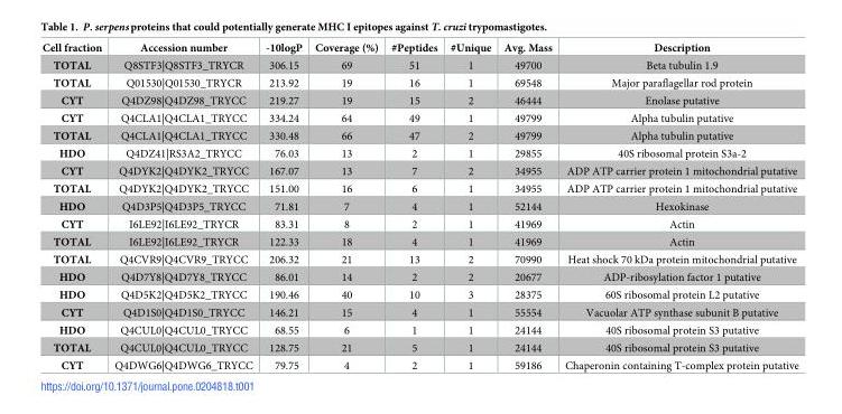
<table><thead><tr><td>Cell fraction</td><td>Accession number</td><td>-10logP</td><td>Coverage (%)</td><td>#Peptides</td><td>#Unique</td><td>Avg. Mass</td><td>Description</td></tr></thead><tbody><tr><td>TOTAL</td><td>Q8STF3|Q8STF3_TRYCR</td><td>306.15</td><td>69</td><td>51</td><td>1</td><td>49700</td><td>Beta tubulin 1.9</td></tr><tr><td>TOTAL</td><td>Q01530|Q01530_TRYCR</td><td>213.92</td><td>19</td><td>16</td><td>1</td><td>69548</td><td>Major paraflagellar rod protein</td></tr><tr><td>CYT</td><td>Q4DZ98|Q4DZ98_TRYCC</td><td>219.27</td><td>19</td><td>15</td><td>2</td><td>46444</td><td>Enolase putative</td></tr><tr><td>CYT</td><td>Q4CLA1|Q4CLA1_TRYCC</td><td>334.24</td><td>64</td><td>49</td><td>1</td><td>49799</td><td>Alpha tubulin putative</td></tr><tr><td>TOTAL</td><td>Q4CLA1|Q4CLA1_TRYCC</td><td>330.48</td><td>66</td><td>47</td><td>2</td><td>49799</td><td>Alpha tubulin putative</td></tr><tr><td>HDO</td><td>Q4DZ41|RS3A2_TRYCC</td><td>76.03</td><td>13</td><td>2</td><td>1</td><td>29855</td><td>40S ribosomal protein S3a-2</td></tr><tr><td>CYT</td><td>Q4DYK2|Q4DYK2_TRYCC</td><td>167.07</td><td>13</td><td>7</td><td>2</td><td>34955</td><td>ADP ATP carrier protein 1 mitochondrial putative</td></tr><tr><td>TOTAL</td><td>Q4DYK2|Q4DYK2_TRYCC</td><td>151.00</td><td>16</td><td>6</td><td>1</td><td>34955</td><td>ADP ATP carrier protein 1 mitochondrial putative</td></tr><tr><td>HDO</td><td>Q4D3P5|Q4D3P5_TRYCC</td><td>71.81</td><td>7</td><td>4</td><td>1</td><td>52144</td><td>Hexokinase</td></tr><tr><td>CYT</td><td>I6LE92|I6LE92_TRYCR</td><td>83.31</td><td>8</td><td>2</td><td>1</td><td>41969</td><td>Actin</td></tr><tr><td>TOTAL</td><td>I6LE92|I6LE92_TRYCR</td><td>122.33</td><td>18</td><td>4</td><td>1</td><td>41969</td><td>Actin</td></tr><tr><td>TOTAL</td><td>Q4CVR9|Q4CVR9_TRYCC</td><td>206.32</td><td>21</td><td>13</td><td>2</td><td>70990</td><td>Heat shock 70 kDa protein mitochondrial putative</td></tr><tr><td>HDO</td><td>Q4D7Y8|Q4D7Y8_TRYCC</td><td>86.01</td><td>14</td><td>2</td><td>2</td><td>20677</td><td>ADP-ribosylation factor 1 putative</td></tr><tr><td>HDO</td><td>Q4D5K2|Q4D5K2_TRYCC</td><td>190.46</td><td>40</td><td>10</td><td>3</td><td>28375</td><td>60S ribosomal protein L2 putative</td></tr><tr><td>CYT</td><td>Q4D1S0|Q4D1S0_TRYCC</td><td>146.21</td><td>15</td><td>4</td><td>1</td><td>55554</td><td>Vacuolar ATP synthase subunit B putative</td></tr><tr><td>HDO</td><td>Q4CUL0|Q4CUL0_TRYCC</td><td>68.55</td><td>6</td><td>1</td><td>1</td><td>24144</td><td>40S ribosomal protein S3 putative</td></tr><tr><td>TOTAL</td><td>Q4CUL0|Q4CUL0_TRYCC</td><td>128.75</td><td>21</td><td>5</td><td>1</td><td>24144</td><td>40S ribosomal protein S3 putative</td></tr><tr><td>CYT</td><td>Q4DWG6|Q4DWG6_TRYCC</td><td>79.75</td><td>4</td><td>2</td><td>1</td><td>59186</td><td>Chaperonin containing T-complex protein putative</td></tr></tbody></table>